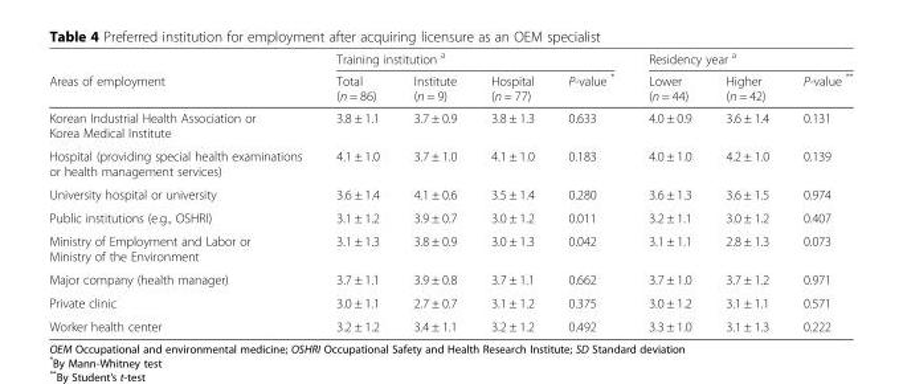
<table><thead><tr><td rowspan="2">Areas of employment</td><td colspan="4">Training institution <sup>a</sup></td><td colspan="3">Residency year <sup>a</sup></td></tr><tr><td>Total (n = 86)</td><td>Institute (n = 9)</td><td>Hospital (n = 77)</td><td>P-value *</td><td>Lower (n = 44)</td><td>Higher (n = 42)</td><td>P-value **</td></tr></thead><tbody><tr><td>Korean Industrial Health Association or Korea Medical Institute</td><td>3.8 ± 1.1</td><td>3.7 ± 0.9</td><td>3.8 ± 1.3</td><td>0.633</td><td>4.0 ± 0.9</td><td>3.6 ± 1.4</td><td>0.131</td></tr><tr><td>Hospital (providing special health examinations or health management services)</td><td>4.1 ± 1.0</td><td>3.7 ± 1.0</td><td>4.1 ± 1.0</td><td>0.183</td><td>4.0 ± 1.0</td><td>4.2 ± 1.0</td><td>0.139</td></tr><tr><td>University hospital or university</td><td>3.6 ± 1.4</td><td>4.1 ± 0.6</td><td>3.5 ± 1.4</td><td>0.280</td><td>3.6 ± 1.3</td><td>3.6 ± 1.5</td><td>0.974</td></tr><tr><td>Public institutions (e.g., OSHRI)</td><td>3.1 ± 1.2</td><td>3.9 ± 0.7</td><td>3.0 ± 1.2</td><td>0.011</td><td>3.2 ± 1.1</td><td>3.0 ± 1.2</td><td>0.407</td></tr><tr><td>Ministry of Employment and Labor or Ministry of the Environment</td><td>3.1 ± 1.3</td><td>3.8 ± 0.9</td><td>3.0 ± 1.3</td><td>0.042</td><td>3.1 ± 1.1</td><td>2.8 ± 1.3</td><td>0.073</td></tr><tr><td>Major company (health manager)</td><td>3.7 ± 1.1</td><td>3.9 ± 0.8</td><td>3.7 ± 1.1</td><td>0.662</td><td>3.7 ± 1.0</td><td>3.7 ± 1.2</td><td>0.971</td></tr><tr><td>Private clinic</td><td>3.0 ± 1.1</td><td>2.7 ± 0.7</td><td>3.1 ± 1.2</td><td>0.375</td><td>3.0 ± 1.2</td><td>3.1 ± 1.1</td><td>0.571</td></tr><tr><td>Worker health center</td><td>3.2 ± 1.2</td><td>3.4 ± 1.1</td><td>3.2 ± 1.2</td><td>0.492</td><td>3.3 ± 1.0</td><td>3.1 ± 1.3</td><td>0.222</td></tr></tbody></table>